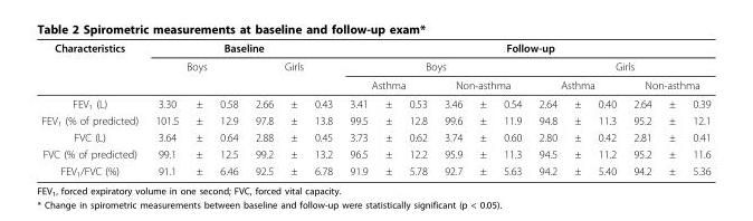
<table><thead><tr><td rowspan="4">Characteristics FEV<sub>1</sub> (L)</td><td colspan="6">Baseline</td><td colspan="12">Follow-up</td></tr><tr><td colspan="3">Boys</td><td colspan="3">Girls</td><td colspan="6">Boys</td><td colspan="6">Girls</td></tr><tr><td rowspan="2">3.30</td><td rowspan="2">±</td><td rowspan="2">0.58</td><td rowspan="2">2.66</td><td rowspan="2">±</td><td rowspan="2">0.43</td><td colspan="3">Asthma</td><td colspan="3">Non-asthma</td><td colspan="3">Asthma</td><td colspan="3">Non-asthma</td></tr><tr><td>3.41</td><td>±</td><td>0.53</td><td>3.46</td><td>±</td><td>0.54</td><td>2.64</td><td>±</td><td>0.40</td><td>2.64</td><td>±</td><td>0.39</td></tr></thead><tbody><tr><td>FEV<sub>1</sub> (% of predicted)</td><td>101.5</td><td>±</td><td>12.9</td><td>97.8</td><td>±</td><td>13.8</td><td>99.5</td><td>±</td><td>12.8</td><td>99.6</td><td>±</td><td>11.9</td><td>94.8</td><td>±</td><td>11.3</td><td>95.2</td><td>±</td><td>12.1</td></tr><tr><td>FVC (L)</td><td>3.64</td><td>±</td><td>0.64</td><td>2.88</td><td>±</td><td>0.45</td><td>3.73</td><td>±</td><td>0.62</td><td>3.74</td><td>±</td><td>0.60</td><td>2.80</td><td>±</td><td>0.42</td><td>2.81</td><td>±</td><td>0.41</td></tr><tr><td>FVC (% of predicted)</td><td>99.1</td><td>±</td><td>12.5</td><td>99.2</td><td>±</td><td>13.2</td><td>96.5</td><td>±</td><td>12.2</td><td>95.9</td><td>±</td><td>11.3</td><td>94.5</td><td>±</td><td>11.2</td><td>95.2</td><td>±</td><td>11.6</td></tr><tr><td>FEV<sub>1</sub>/FVC (%)</td><td>91.1</td><td>±</td><td>6.46</td><td>92.5</td><td>±</td><td>6.78</td><td>91.9</td><td>±</td><td>5.78</td><td>92.7</td><td>±</td><td>5.63</td><td>94.2</td><td>±</td><td>5.40</td><td>94.2</td><td>±</td><td>5.36</td></tr></tbody></table>